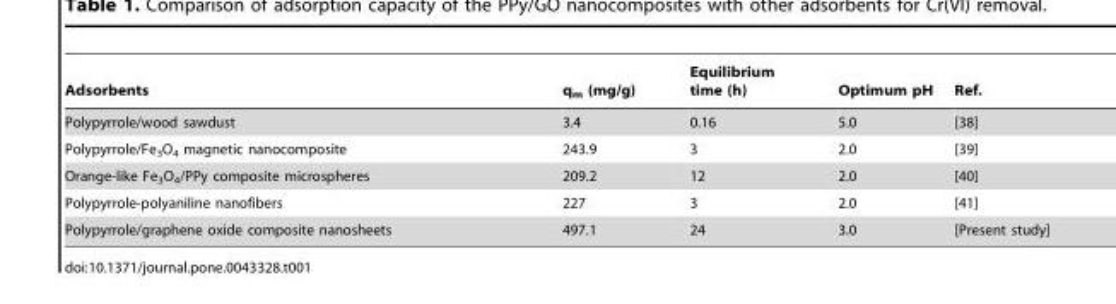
<table><thead><tr><td>Adsorbents</td><td>q<sub>m</sub> (mg/g)</td><td>Equilibrium time (h)</td><td>Optimum pH</td><td>Ref.</td></tr></thead><tbody><tr><td>Polypyrrole/wood sawdust</td><td>3.4</td><td>0.16</td><td>5.0</td><td>[38]</td></tr><tr><td>Polypyrrole/Fe<sub>3</sub>O<sub>4</sub> magnetic nanocomposite</td><td>243.9</td><td>3</td><td>2.0</td><td>[39]</td></tr><tr><td>Orange-like Fe<sub>3</sub>O<sub>4</sub>/PPy composite microspheres</td><td>209.2</td><td>12</td><td>2.0</td><td>[40]</td></tr><tr><td>Polypyrrole-polyaniline nanofibers</td><td>227</td><td>3</td><td>2.0</td><td>[41]</td></tr><tr><td>Polypyrrole/graphene oxide composite nanosheets</td><td>497.1</td><td>24</td><td>3.0</td><td>[Present study]</td></tr></tbody></table>